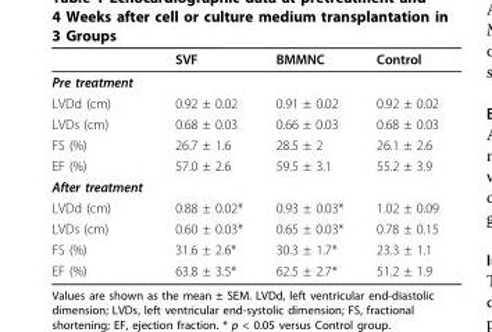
<table><thead><tr><td></td><td>SVF</td><td>BMMNC</td><td>Control</td></tr></thead><tbody><tr><td colspan="4">Pre treatment</td></tr><tr><td>LVDd (cm)</td><td>0.92 ± 0.02</td><td>0.91 ± 0.02</td><td>0.92 ± 0.02</td></tr><tr><td>LVDs (cm)</td><td>0.68 ± 0.03</td><td>0.66 ± 0.03</td><td>0.68 ± 0.03</td></tr><tr><td>FS (%)</td><td>26.7 ± 1.6</td><td>28.5 ± 2</td><td>26.1 ± 2.6</td></tr><tr><td>EF (%)</td><td>57.0 ± 2.6</td><td>59.5 ± 3.1</td><td>55.2 ± 3.9</td></tr><tr><td colspan="4">After treatment</td></tr><tr><td>LVDd (cm)</td><td>0.88 ± 0.02*</td><td>0.93 ± 0.03*</td><td>1.02 ± 0.09</td></tr><tr><td>LVDs (cm)</td><td>0.60 ± 0.03*</td><td>0.65 ± 0.03*</td><td>0.78 ± 0.15</td></tr><tr><td>FS (%)</td><td>31.6 ± 2.6*</td><td>30.3 ± 1.7*</td><td>23.3 ± 1.1</td></tr><tr><td>EF (%)</td><td>63.8 ± 3.5*</td><td>62.5 ± 2.7*</td><td>51.2 ± 1.9</td></tr></tbody></table>